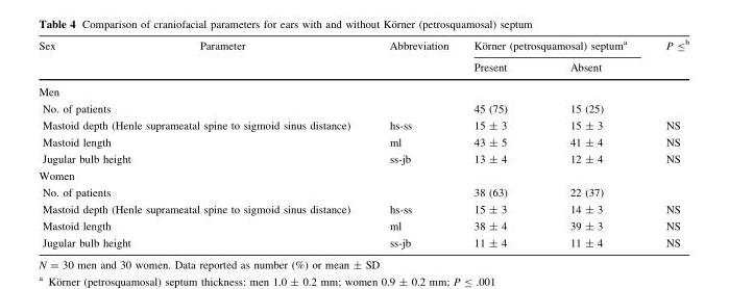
<table><thead><tr><td rowspan="2">Sex</td><td rowspan="2">Parameter</td><td rowspan="2">Abbreviation</td><td colspan="2">Ko¨rner (petrosquamosal) septuma</td><td rowspan="2">P ≤<sup>b</sup></td></tr><tr><td>Present</td><td>Absent</td></tr></thead><tbody><tr><td colspan="6">Men</td></tr><tr><td colspan="2">No. of patients</td><td></td><td>45 (75)</td><td>15 (25)</td><td></td></tr><tr><td colspan="2">Mastoid depth (Henle suprameatal spine to sigmoid sinus distance)</td><td>hs-ss</td><td>15 ± 3</td><td>15 ± 3</td><td>NS</td></tr><tr><td colspan="2">Mastoid length</td><td>ml</td><td>43 ± 5</td><td>41 ± 4</td><td>NS</td></tr><tr><td colspan="2">Jugular bulb height</td><td>ss-jb</td><td>13 ± 4</td><td>12 ± 4</td><td>NS</td></tr><tr><td colspan="6">Women</td></tr><tr><td colspan="2">No. of patients</td><td></td><td>38 (63)</td><td>22 (37)</td><td></td></tr><tr><td colspan="2">Mastoid depth (Henle suprameatal spine to sigmoid sinus distance)</td><td>hs-ss</td><td>15 ± 3</td><td>14 ± 3</td><td>NS</td></tr><tr><td colspan="2">Mastoid length</td><td>ml</td><td>38 ± 4</td><td>39 ± 3</td><td>NS</td></tr><tr><td colspan="2">Jugular bulb height</td><td>ss-jb</td><td>11 ± 4</td><td>11 ± 4</td><td>NS</td></tr></tbody></table>